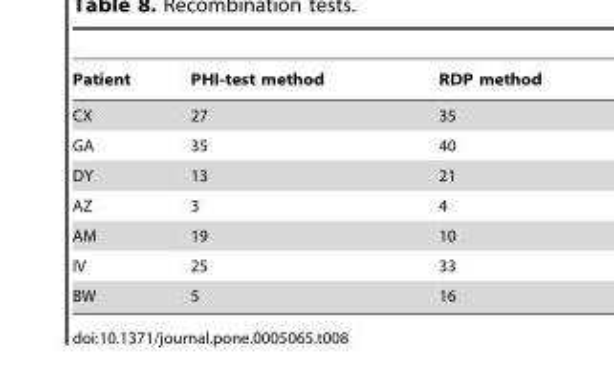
<table><thead><tr><td>Patient</td><td>PHI-test method</td><td>RDP method</td></tr></thead><tbody><tr><td>CX</td><td>27</td><td>35</td></tr><tr><td>GA</td><td>35</td><td>40</td></tr><tr><td>DY</td><td>13</td><td>21</td></tr><tr><td>AZ</td><td>3</td><td>4</td></tr><tr><td>AM</td><td>19</td><td>10</td></tr><tr><td>IV</td><td>25</td><td>33</td></tr><tr><td>BW</td><td>5</td><td>16</td></tr></tbody></table>